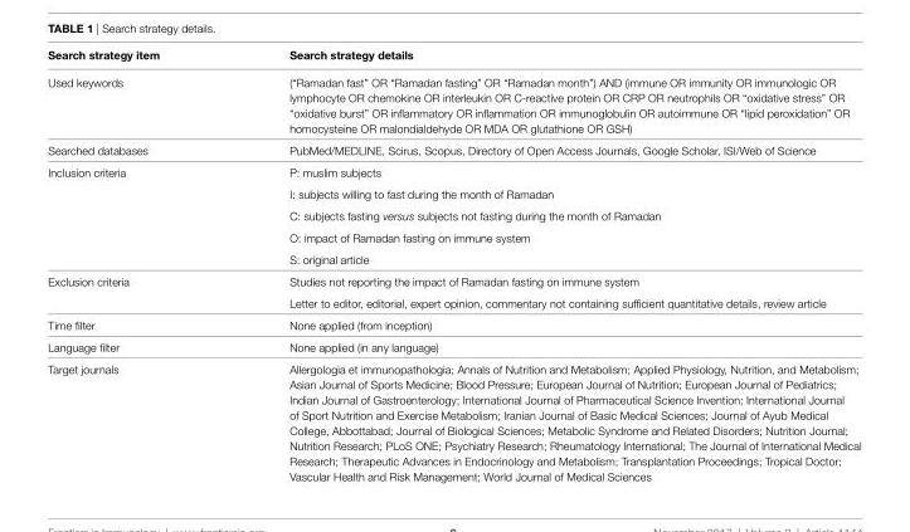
<table><thead><tr><td>Search strategy item</td><td>Search strategy details</td></tr></thead><tbody><tr><td>Used keywords</td><td>(“Ramadan fast” OR “Ramadan fasting” OR “Ramadan month”) AND (immune OR immunity OR immunologic OR lymphocyte OR chemokine OR interleukin OR C-reactive protein OR CRP OR neutrophils OR “oxidative stress” OR “oxidative burst” OR inflammatory OR inflammation OR immunoglobulin OR autoimmune OR “lipid peroxidation” OR homocysteine OR malondialdehyde OR MDA OR glutathione OR GSH)</td></tr><tr><td>Searched databases</td><td>PubMed/MEDLINE, Scirus, Scopus, Directory of Open Access Journals, Google Scholar, ISI/Web of Science</td></tr><tr><td rowspan="5">Inclusion criteria</td><td>P: muslim subjects</td></tr><tr><td>I: subjects willing to fast during the month of Ramadan</td></tr><tr><td>C: subjects fasting versus subjects not fasting during the month of Ramadan</td></tr><tr><td>O: impact of Ramadan fasting on immune system</td></tr><tr><td>S: original article</td></tr><tr><td rowspan="2">Exclusion criteria</td><td>Studies not reporting the impact of Ramadan fasting on immune system</td></tr><tr><td>Letter to editor, editorial, expert opinion, commentary not containing sufficient quantitative details, review article</td></tr><tr><td>Time filter</td><td>None applied (from inception)</td></tr><tr><td>Language filter</td><td>None applied (in any language)</td></tr><tr><td>Target journals</td><td>Allergologia et immunopathologia; Annals of Nutrition and Metabolism; Applied Physiology, Nutrition, and Metabolism; Asian Journal of Sports Medicine; Blood Pressure; European Journal of Nutrition; European Journal of Pediatrics; Indian Journal of Gastroenterology; International Journal of Pharmaceutical Science Invention; International Journal of Sport Nutrition and Exercise Metabolism; Iranian Journal of Basic Medical Sciences; Journal of Ayub Medical College, Abbottabad; Journal of Biological Sciences; Metabolic Syndrome and Related Disorders; Nutrition Journal; Nutrition Research; PLoS ONE; Psychiatry Research; Rheumatology International; The Journal of International Medical Research; Therapeutic Advances in Endocrinology and Metabolism; Transplantation Proceedings; Tropical Doctor; Vascular Health and Risk Management; World Journal of Medical Sciences</td></tr></tbody></table>